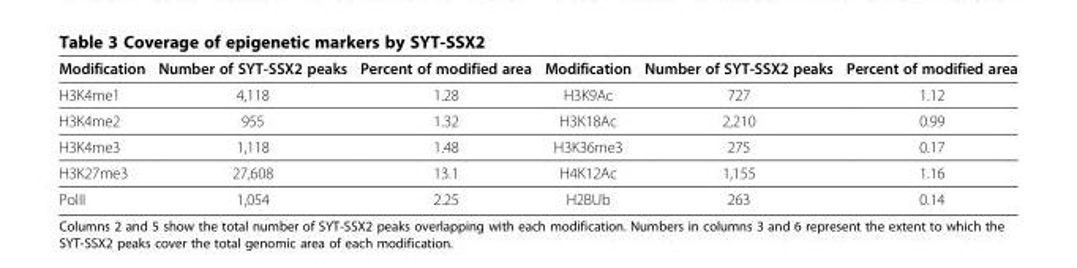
<table><thead><tr><td>Modification</td><td>Number of SYT-SSX2 peaks</td><td>Percent of modified area</td><td>Modification</td><td>Number of SYT-SSX2 peaks</td><td>Percent of modified area</td></tr></thead><tbody><tr><td>H3K4me1</td><td>4,118</td><td>1.28</td><td>H3K9Ac</td><td>727</td><td>1.12</td></tr><tr><td>H3K4me2</td><td>955</td><td>1.32</td><td>H3K18Ac</td><td>2,210</td><td>0.99</td></tr><tr><td>H3K4me3</td><td>1,118</td><td>1.48</td><td>H3K36me3</td><td>275</td><td>0.17</td></tr><tr><td>H3K27me3</td><td>27,608</td><td>13.1</td><td>H4K12Ac</td><td>1,155</td><td>1.16</td></tr><tr><td>PolII</td><td>1,054</td><td>2.25</td><td>H2BUb</td><td>263</td><td>0.14</td></tr></tbody></table>